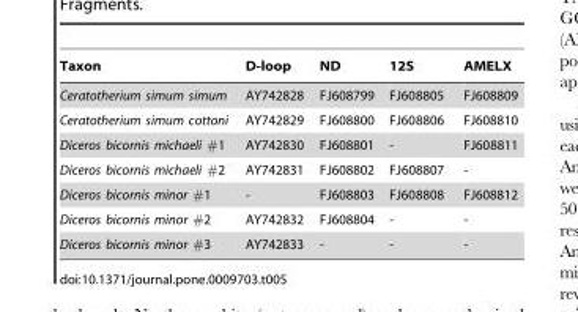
<table><thead><tr><td>Taxon</td><td>D-loop</td><td>ND</td><td>12S</td><td>AMELX</td></tr></thead><tbody><tr><td>Ceratotherium simum simum</td><td>AY742828</td><td>FJ608799</td><td>FJ608805</td><td>FJ608809</td></tr><tr><td>Ceratotherium simum cottoni</td><td>AY742829</td><td>FJ608800</td><td>FJ608806</td><td>FJ608810</td></tr><tr><td>Diceros bicornis michaeli #1</td><td>AY742830</td><td>FJ608801</td><td>-</td><td>FJ608811</td></tr><tr><td>Diceros bicornis michaeli #2</td><td>AY742831</td><td>FJ608802</td><td>FJ608807</td><td>-</td></tr><tr><td>Diceros bicornis minor #1</td><td>-</td><td>FJ608803</td><td>FJ608808</td><td>FJ608812</td></tr><tr><td>Diceros bicornis minor #2</td><td>AY742832</td><td>FJ608804</td><td>-</td><td>-</td></tr><tr><td>Diceros bicornis minor #3</td><td>AY742833</td><td>-</td><td>-</td><td>-</td></tr></tbody></table>